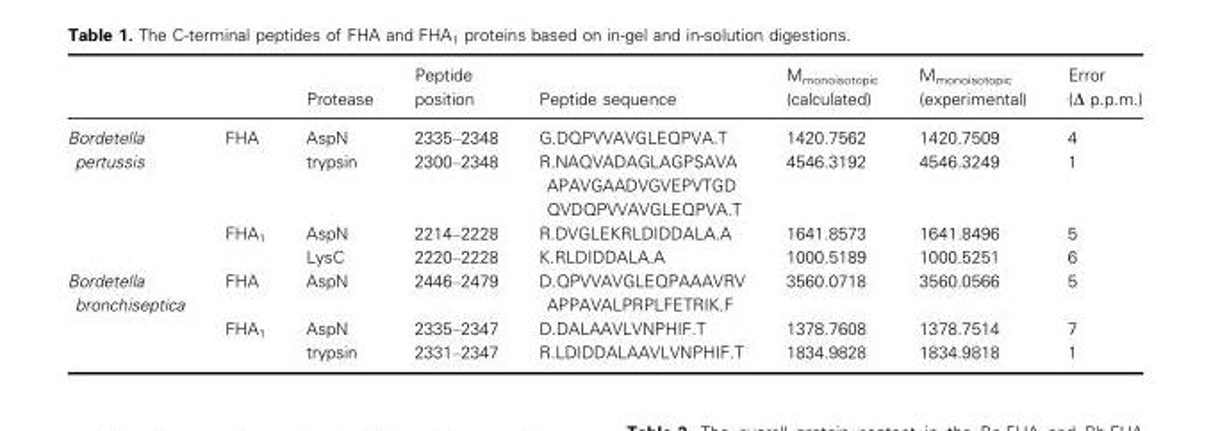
<table><thead><tr><td></td><td></td><td>Protease</td><td>Peptide position</td><td>Peptide sequence</td><td>M<sub>monoisotopic</sub> (calculated)</td><td>M<sub>monoisotopic</sub> (experimental)</td><td>Error (Δ p.p.m.)</td></tr></thead><tbody><tr><td rowspan="4">Bordetella pertussis</td><td rowspan="2">FHA</td><td>AspN</td><td>2335–2348</td><td>G.DQPVVAVGLEQPVA.T</td><td>1420.7562</td><td>1420.7509</td><td>4</td></tr><tr><td>trypsin</td><td>2300–2348</td><td>R.NAQVADAGLAGPSAVA APAVGAADVGVEPVTGD QVDQPVVAVGLEQPVA.T</td><td>4546.3192</td><td>4546.3249</td><td>1</td></tr><tr><td rowspan="2">FHA<sub>1</sub></td><td>AspN</td><td>2214–2228</td><td>R.DVGLEKRLDIDDALA.A</td><td>1641.8573</td><td>1641.8496</td><td>5</td></tr><tr><td>LysC</td><td>2220–2228</td><td>K.RLDIDDALA.A</td><td>1000.5189</td><td>1000.5251</td><td>6</td></tr><tr><td rowspan="3">Bordetella bronchiseptica</td><td>FHA</td><td>AspN</td><td>2446–2479</td><td>D.QPVVAVGLEQPAAAVRV APPAVALPRPLFETRIK.F</td><td>3560.0718</td><td>3560.0566</td><td>5</td></tr><tr><td rowspan="2">FHA<sub>1</sub></td><td>AspN</td><td>2335–2347</td><td>D.DALAAVLVNPHIF.T</td><td>1378.7608</td><td>1378.7514</td><td>7</td></tr><tr><td>trypsin</td><td>2331–2347</td><td>R.LDIDDALAAVLVNPHIF.T</td><td>1834.9828</td><td>1834.9818</td><td>1</td></tr></tbody></table>